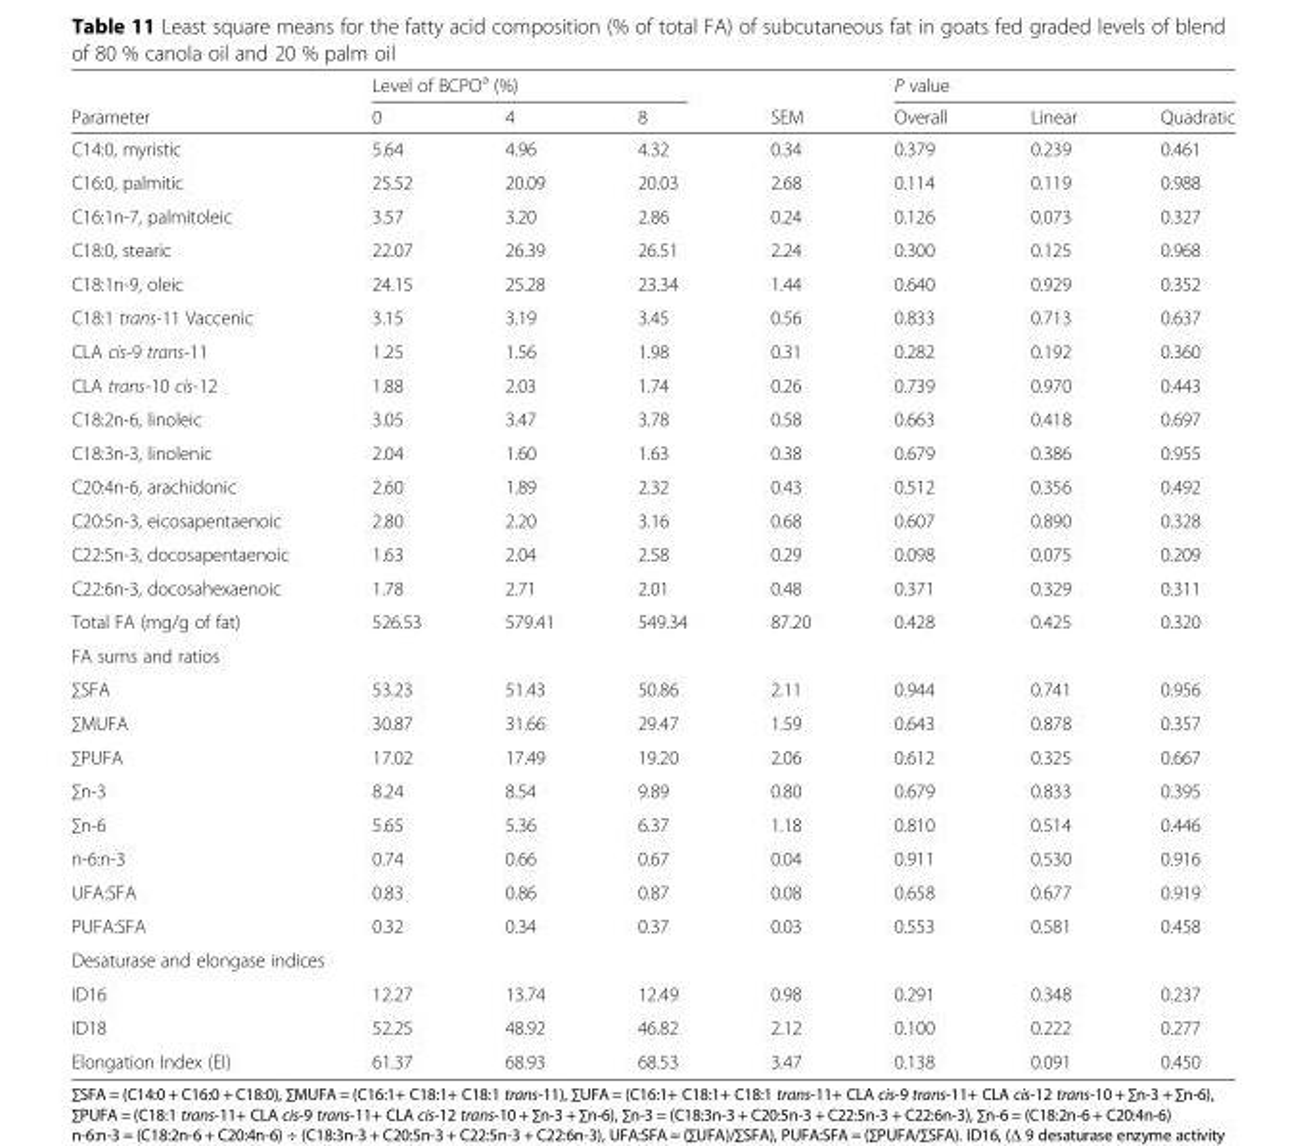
<table><thead><tr><td rowspan="2">Parameter</td><td colspan="3">Level of BCPO<sup>a</sup> (%)</td><td rowspan="2">SEM</td><td colspan="3">P value</td></tr><tr><td>0</td><td>4</td><td>8</td><td>Overall</td><td>Linear</td><td>Quadratic</td></tr></thead><tbody><tr><td>C14:0, myristic</td><td>5.64</td><td>4.96</td><td>4.32</td><td>0.34</td><td>0.379</td><td>0.239</td><td>0.461</td></tr><tr><td>C16:0, palmitic</td><td>25.52</td><td>20.09</td><td>20.03</td><td>2.68</td><td>0.114</td><td>0.119</td><td>0.988</td></tr><tr><td>C16:1n-7, palmitoleic</td><td>3.57</td><td>3.20</td><td>2.86</td><td>0.24</td><td>0.126</td><td>0.073</td><td>0.327</td></tr><tr><td>C18:0, stearic</td><td>22.07</td><td>26.39</td><td>26.51</td><td>2.24</td><td>0.300</td><td>0.125</td><td>0.968</td></tr><tr><td>C18:1n-9, oleic</td><td>24.15</td><td>25.28</td><td>23.34</td><td>1.44</td><td>0.640</td><td>0.929</td><td>0.352</td></tr><tr><td>C18:1 trans-11 Vaccenic</td><td>3.15</td><td>3.19</td><td>3.45</td><td>0.56</td><td>0.833</td><td>0.713</td><td>0.637</td></tr><tr><td>CLA cis-9 trans-11</td><td>1.25</td><td>1.56</td><td>1.98</td><td>0.31</td><td>0.282</td><td>0.192</td><td>0.360</td></tr><tr><td>CLA trans-10 cis-12</td><td>1.88</td><td>2.03</td><td>1.74</td><td>0.26</td><td>0.739</td><td>0.970</td><td>0.443</td></tr><tr><td>C18:2n-6, linoleic</td><td>3.05</td><td>3.47</td><td>3.78</td><td>0.58</td><td>0.663</td><td>0.418</td><td>0.697</td></tr><tr><td>C18:3n-3, linolenic</td><td>2.04</td><td>1.60</td><td>1.63</td><td>0.38</td><td>0.679</td><td>0.386</td><td>0.955</td></tr><tr><td>C20:4n-6, arachidonic</td><td>2.60</td><td>1.89</td><td>2.32</td><td>0.43</td><td>0.512</td><td>0.356</td><td>0.492</td></tr><tr><td>C20:5n-3, eicosapentaenoic</td><td>2.80</td><td>2.20</td><td>3.16</td><td>0.68</td><td>0.607</td><td>0.890</td><td>0.328</td></tr><tr><td>C22:5n-3, docosapentaenoic</td><td>1.63</td><td>2.04</td><td>2.58</td><td>0.29</td><td>0.098</td><td>0.075</td><td>0.209</td></tr><tr><td>C22:6n-3, docosahexaenoic</td><td>1.78</td><td>2.71</td><td>2.01</td><td>0.48</td><td>0.371</td><td>0.329</td><td>0.311</td></tr><tr><td>Total FA (mg/g of fat)</td><td>526.53</td><td>579.41</td><td>549.34</td><td>87.20</td><td>0.428</td><td>0.425</td><td>0.320</td></tr><tr><td colspan="8">FA sums and ratios</td></tr><tr><td>∑SFA</td><td>53.23</td><td>51.43</td><td>50.86</td><td>2.11</td><td>0.944</td><td>0.741</td><td>0.956</td></tr><tr><td>∑MUFA</td><td>30.87</td><td>31.66</td><td>29.47</td><td>1.59</td><td>0.643</td><td>0.878</td><td>0.357</td></tr><tr><td>∑PUFA</td><td>17.02</td><td>17.49</td><td>19.20</td><td>2.06</td><td>0.612</td><td>0.325</td><td>0.667</td></tr><tr><td>∑n-3</td><td>8.24</td><td>8.54</td><td>9.89</td><td>0.80</td><td>0.679</td><td>0.833</td><td>0.395</td></tr><tr><td>∑n-6</td><td>5.65</td><td>5.36</td><td>6.37</td><td>1.18</td><td>0.810</td><td>0.514</td><td>0.446</td></tr><tr><td>n-6:n-3</td><td>0.74</td><td>0.66</td><td>0.67</td><td>0.04</td><td>0.911</td><td>0.530</td><td>0.916</td></tr><tr><td>UFA:SFA</td><td>0.83</td><td>0.86</td><td>0.87</td><td>0.08</td><td>0.658</td><td>0.677</td><td>0.919</td></tr><tr><td>PUFA:SFA</td><td>0.32</td><td>0.34</td><td>0.37</td><td>0.03</td><td>0.553</td><td>0.581</td><td>0.458</td></tr><tr><td colspan="8">Desaturase and elongase indices</td></tr><tr><td>ID16</td><td>12.27</td><td>13.74</td><td>12.49</td><td>0.98</td><td>0.291</td><td>0.348</td><td>0.237</td></tr><tr><td>ID18</td><td>52.25</td><td>48.92</td><td>46.82</td><td>2.12</td><td>0.100</td><td>0.222</td><td>0.277</td></tr><tr><td>Elongation Index (EI)</td><td>61.37</td><td>68.93</td><td>68.53</td><td>3.47</td><td>0.138</td><td>0.091</td><td>0.450</td></tr></tbody></table>